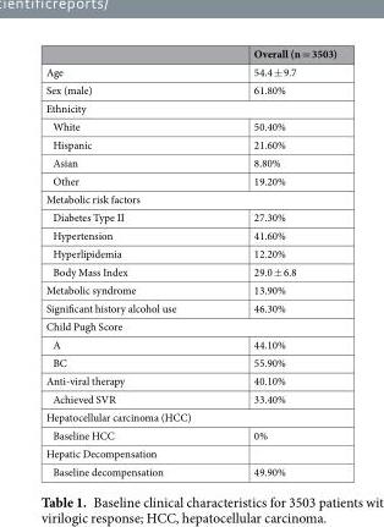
<table><thead><tr><td></td><td>Overall (n = 3503)</td></tr></thead><tbody><tr><td>Age</td><td>54.4 ± 9.7</td></tr><tr><td>Sex (male)</td><td>61.80%</td></tr><tr><td colspan="2">Ethnicity</td></tr><tr><td>White</td><td>50.40%</td></tr><tr><td>Hispanic</td><td>21.60%</td></tr><tr><td>Asian</td><td>8.80%</td></tr><tr><td>Other</td><td>19.20%</td></tr><tr><td colspan="2">Metabolic risk factors</td></tr><tr><td>Diabetes Type II</td><td>27.30%</td></tr><tr><td>Hypertension</td><td>41.60%</td></tr><tr><td>Hyperlipidemia</td><td>12.20%</td></tr><tr><td>Body Mass Index</td><td>29.0 ± 6.8</td></tr><tr><td>Metabolic syndrome</td><td>13.90%</td></tr><tr><td>Significant history alcohol use</td><td>46.30%</td></tr><tr><td colspan="2">Child Pugh Score</td></tr><tr><td>A</td><td>44.10%</td></tr><tr><td>BC</td><td>55.90%</td></tr><tr><td>Anti-viral therapy</td><td>40.10%</td></tr><tr><td>Achieved SVR</td><td>33.40%</td></tr><tr><td colspan="2">Hepatocellular carcinoma (HCC)</td></tr><tr><td>Baseline HCC</td><td>0%</td></tr><tr><td colspan="2">Hepatic Decompensation</td></tr><tr><td>Baseline decompensation</td><td>49.90%</td></tr></tbody></table>